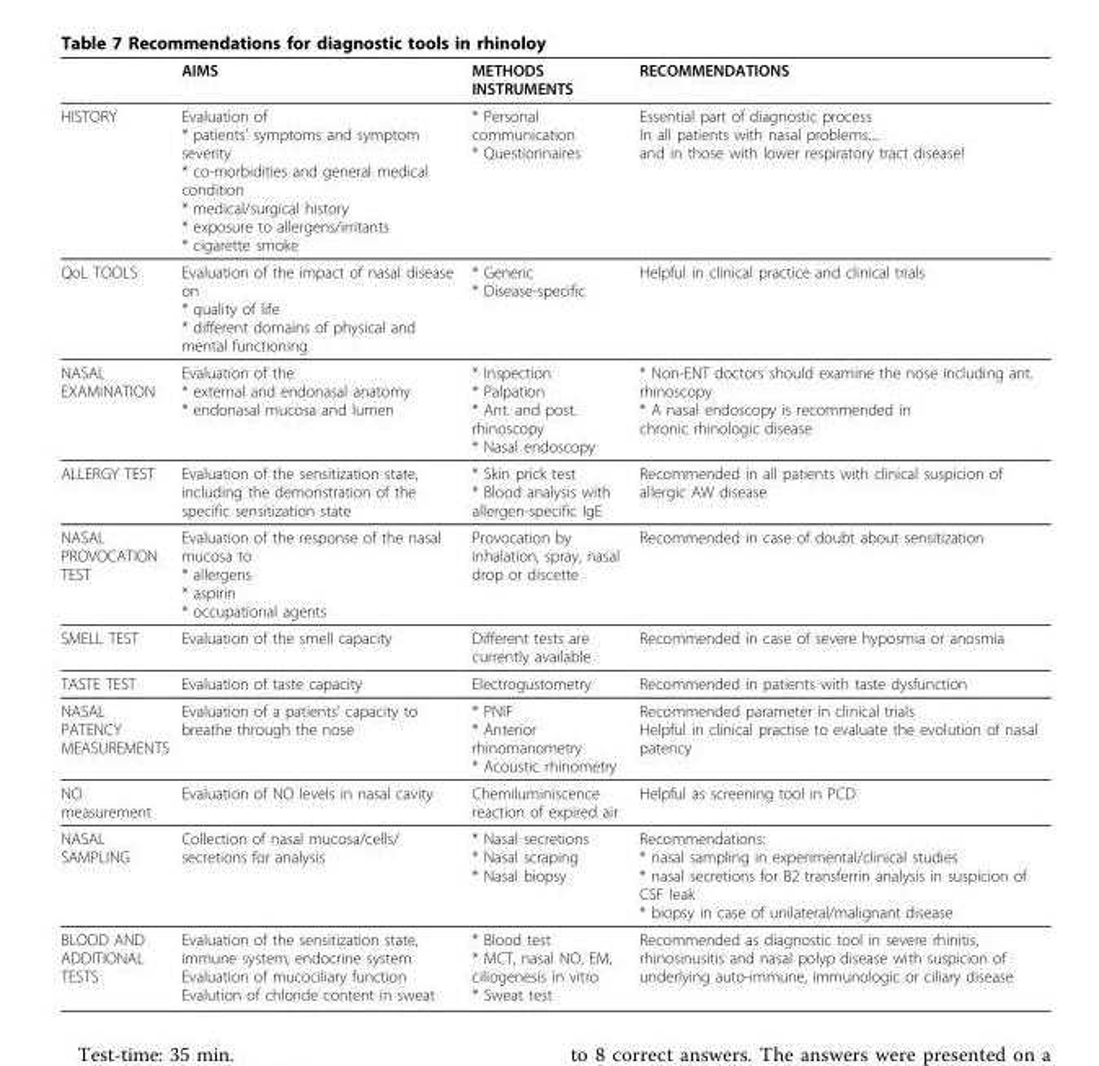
<table><thead><tr><td></td><td>AIMS</td><td>METHODS INSTRUMENTS</td><td>RECOMMENDATIONS</td></tr></thead><tbody><tr><td>HISTORY</td><td>Evaluation of * patients’ symptoms and symptom severity * co-morbidities and general medical condition * medical/surgical history * exposure to allergens/irritants * cigarette smoke</td><td>* Personal communication * Questionnaires</td><td>Essential part of diagnostic process In all patients with nasal problems.... and in those with lower respiratory tract disease!</td></tr><tr><td>QoL TOOLS</td><td>Evaluation of the impact of nasal disease on * quality of life * different domains of physical and mental functioning</td><td>* Generic * Disease-specific</td><td>Helpful in clinical practice and clinical trials</td></tr><tr><td>NASAL EXAMINATION</td><td>Evaluation of the * external and endonasal anatomy * endonasal mucosa and lumen</td><td>* Inspection * Palpation * Ant. and post. rhinoscopy * Nasal endoscopy</td><td>* Non-ENT doctors should examine the nose including ant. rhinoscopy * A nasal endoscopy is recommended in chronic rhinologic disease</td></tr><tr><td>ALLERGY TEST</td><td>Evaluation of the sensitization state, including the demonstration of the specific sensitization state</td><td>* Skin prick test * Blood analysis with allergen-specific IgE</td><td>Recommended in all patients with clinical suspicion of allergic AW disease</td></tr><tr><td>NASAL PROVOCATION TEST</td><td>Evaluation of the response of the nasal mucosa to * allergens * aspirin * occupational agents</td><td>Provocation by inhalation, spray, nasal drop or discette</td><td>Recommended in case of doubt about sensitization</td></tr><tr><td>SMELL TEST</td><td>Evaluation of the smell capacity</td><td>Different tests are currently available</td><td>Recommended in case of severe hyposmia or anosmia</td></tr><tr><td>TASTE TEST</td><td>Evaluation of taste capacity</td><td>Electrogustometry</td><td>Recommended in patients with taste dysfunction</td></tr><tr><td>NASAL PATENCY MEASUREMENTS</td><td>Evaluation of a patients’ capacity to breathe through the nose</td><td>* PNIF * Anterior rhinomanometry * Acoustic rhinometry</td><td>Recommended parameter in clinical trials Helpful in clinical practise to evaluate the evolution of nasal patency</td></tr><tr><td>NO measurement</td><td>Evaluation of NO levels in nasal cavity</td><td>Chemiluminiscence reaction of expired air</td><td>Helpful as screening tool in PCD</td></tr><tr><td>NASAL SAMPLING</td><td>Collection of nasal mucosa/cells/ secretions for analysis</td><td>* Nasal secretions * Nasal scraping * Nasal biopsy</td><td>Recommendations: * nasal sampling in experimental/clinical studies * nasal secretions for B2 transferrin analysis in suspicion of CSF leak * biopsy in case of unilateral/malignant disease</td></tr><tr><td>BLOOD AND ADDITIONAL TESTS</td><td>Evaluation of the sensitization state, immune system, endocrine system Evaluation of mucociliary function Evalution of chloride content in sweat</td><td>* Blood test * MCT, nasal NO, EM, ciliogenesis in vitro * Sweat test</td><td>Recommended as diagnostic tool in severe rhinitis, rhinosinusitis and nasal polyp disease with suspicion of underlying auto-immune, immunologic or ciliary disease</td></tr></tbody></table>